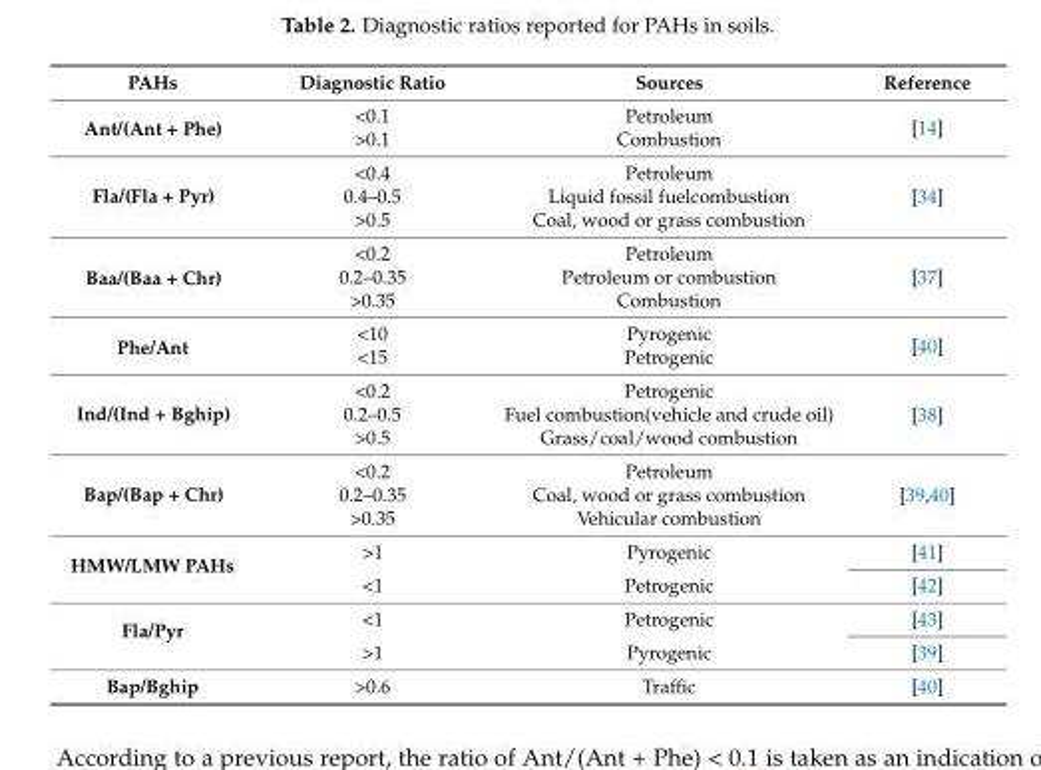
<table><thead><tr><td>PAHs</td><td>Diagnostic Ratio</td><td>Sources</td><td>Reference</td></tr></thead><tbody><tr><td rowspan="2">Ant/(Ant + Phe)</td><td>&lt;0.1</td><td>Petroleum</td><td rowspan="2">[14]</td></tr><tr><td>&gt;0.1</td><td>Combustion</td></tr><tr><td rowspan="3">Fla/(Fla + Pyr)</td><td>&lt;0.4</td><td>Petroleum</td><td rowspan="3">[34]</td></tr><tr><td>0.4–0.5</td><td>Liquid fossil fuelcombustion</td></tr><tr><td>&gt;0.5</td><td>Coal, wood or grass combustion</td></tr><tr><td rowspan="3">Baa/(Baa + Chr)</td><td>&lt;0.2</td><td>Petroleum</td><td rowspan="3">[37]</td></tr><tr><td>0.2–0.35</td><td>Petroleum or combustion</td></tr><tr><td>&gt;0.35</td><td>Combustion</td></tr><tr><td rowspan="2">Phe/Ant</td><td>&lt;10</td><td>Pyrogenic</td><td rowspan="2">[40]</td></tr><tr><td>&lt;15</td><td>Petrogenic</td></tr><tr><td rowspan="3">Ind/(Ind + Bghip)</td><td>&lt;0.2</td><td>Petrogenic</td><td rowspan="3">[38]</td></tr><tr><td>0.2–0.5</td><td>Fuel combustion(vehicle and crude oil)</td></tr><tr><td>&gt;0.5</td><td>Grass/coal/wood combustion</td></tr><tr><td rowspan="3">Bap/(Bap + Chr)</td><td>&lt;0.2</td><td>Petroleum</td><td rowspan="3">[39,40]</td></tr><tr><td>0.2–0.35</td><td>Coal, wood or grass combustion</td></tr><tr><td>&gt;0.35</td><td>Vehicular combustion</td></tr><tr><td rowspan="2">HMW/LMW PAHs</td><td>&gt;1</td><td>Pyrogenic</td><td>[41]</td></tr><tr><td>&lt;1</td><td>Petrogenic</td><td>[42]</td></tr><tr><td rowspan="2">Fla/Pyr</td><td>&lt;1</td><td>Petrogenic</td><td>[43]</td></tr><tr><td>&gt;1</td><td>Pyrogenic</td><td>[39]</td></tr><tr><td>Bap/Bghip</td><td>&gt;0.6</td><td>Traffic</td><td>[40]</td></tr></tbody></table>